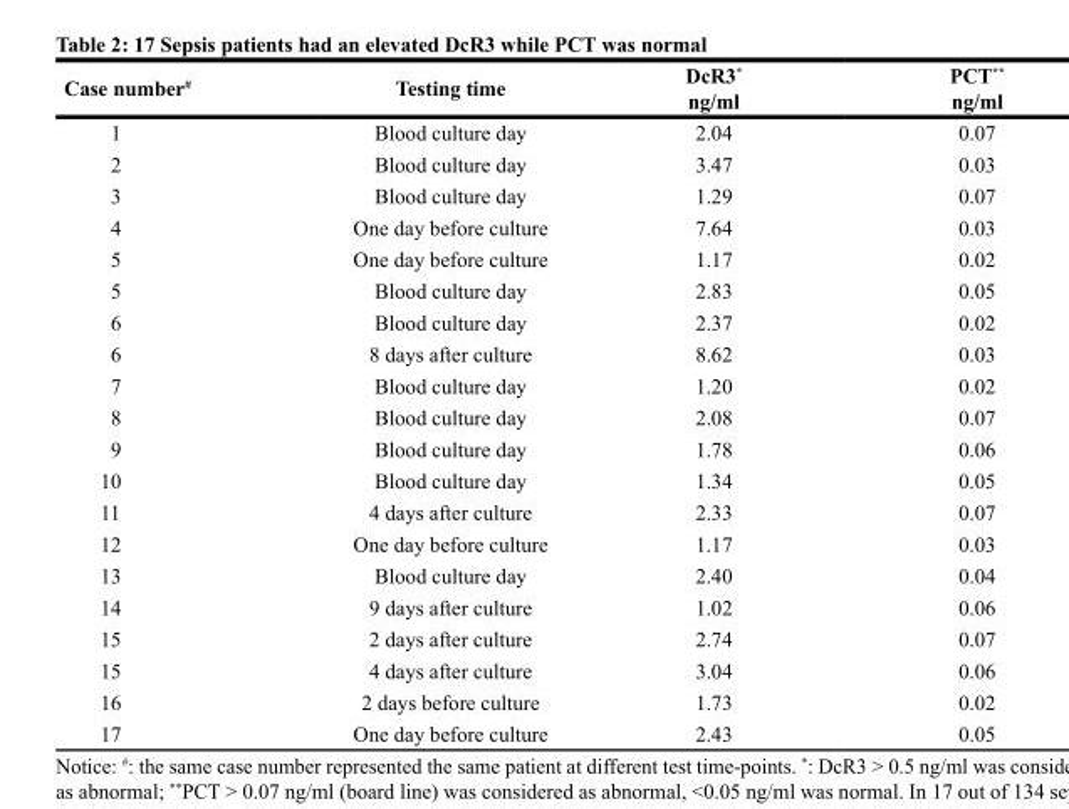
<table><thead><tr><td>Case number<sup>#</sup></td><td>Testing time</td><td>DcR3* ng/ml</td><td>PCT** ng/ml</td></tr></thead><tbody><tr><td>1</td><td>Blood culture day</td><td>2.04</td><td>0.07</td></tr><tr><td>2</td><td>Blood culture day</td><td>3.47</td><td>0.03</td></tr><tr><td>3</td><td>Blood culture day</td><td>1.29</td><td>0.07</td></tr><tr><td>4</td><td>One day before culture</td><td>7.64</td><td>0.03</td></tr><tr><td>5</td><td>One day before culture</td><td>1.17</td><td>0.02</td></tr><tr><td>5</td><td>Blood culture day</td><td>2.83</td><td>0.05</td></tr><tr><td>6</td><td>Blood culture day</td><td>2.37</td><td>0.02</td></tr><tr><td>6</td><td>8 days after culture</td><td>8.62</td><td>0.03</td></tr><tr><td>7</td><td>Blood culture day</td><td>1.20</td><td>0.02</td></tr><tr><td>8</td><td>Blood culture day</td><td>2.08</td><td>0.07</td></tr><tr><td>9</td><td>Blood culture day</td><td>1.78</td><td>0.06</td></tr><tr><td>10</td><td>Blood culture day</td><td>1.34</td><td>0.05</td></tr><tr><td>11</td><td>4 days after culture</td><td>2.33</td><td>0.07</td></tr><tr><td>12</td><td>One day before culture</td><td>1.17</td><td>0.03</td></tr><tr><td>13</td><td>Blood culture day</td><td>2.40</td><td>0.04</td></tr><tr><td>14</td><td>9 days after culture</td><td>1.02</td><td>0.06</td></tr><tr><td>15</td><td>2 days after culture</td><td>2.74</td><td>0.07</td></tr><tr><td>15</td><td>4 days after culture</td><td>3.04</td><td>0.06</td></tr><tr><td>16</td><td>2 days before culture</td><td>1.73</td><td>0.02</td></tr><tr><td>17</td><td>One day before culture</td><td>2.43</td><td>0.05</td></tr></tbody></table>